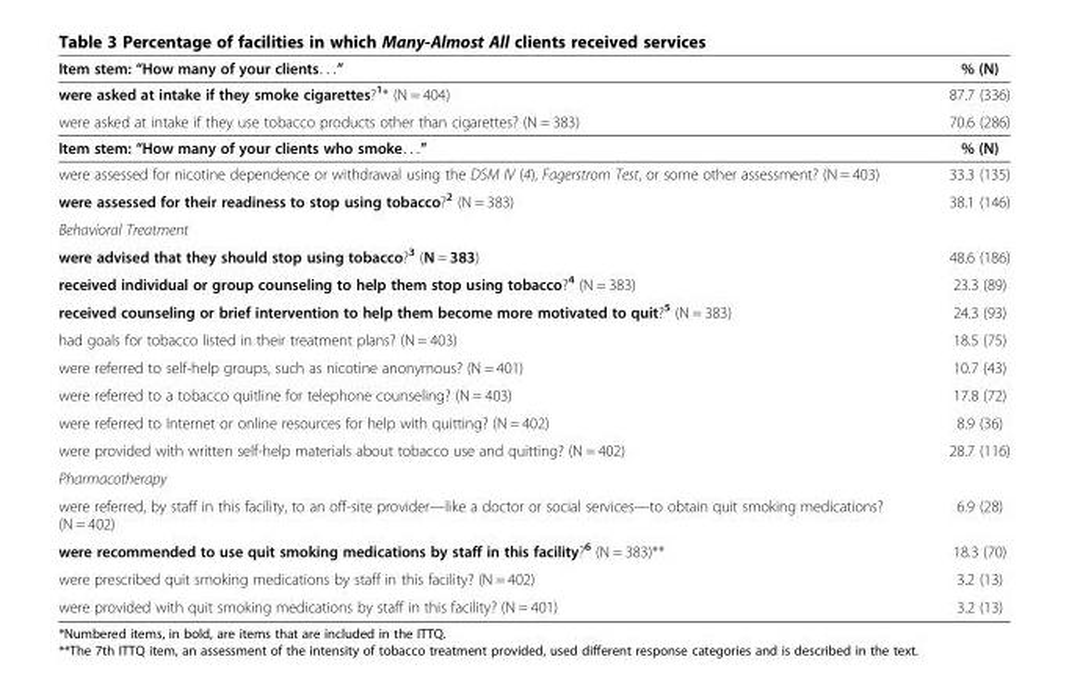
<table><thead><tr><td>Item stem: “How many of your clients. . .”</td><td>% (N)</td></tr></thead><tbody><tr><td>were asked at intake if they smoke cigarettes?<sup>1</sup>* (N = 404)</td><td>87.7 (336)</td></tr><tr><td>were asked at intake if they use tobacco products other than cigarettes? (N = 383)</td><td>70.6 (286)</td></tr><tr><td>Item stem: “How many of your clients who smoke. . .”</td><td>% (N)</td></tr><tr><td>were assessed for nicotine dependence or withdrawal using the DSM IV (4), Fagerstrom Test, or some other assessment? (N = 403)</td><td>33.3 (135)</td></tr><tr><td>were assessed for their readiness to stop using tobacco?<sup>2</sup> (N = 383)</td><td>38.1 (146)</td></tr><tr><td colspan="2">Behavioral Treatment</td></tr><tr><td>were advised that they should stop using tobacco?<sup>3</sup> (N = 383)</td><td>48.6 (186)</td></tr><tr><td>received individual or group counseling to help them stop using tobacco?<sup>4</sup> (N = 383)</td><td>23.3 (89)</td></tr><tr><td>received counseling or brief intervention to help them become more motivated to quit?<sup>5</sup> (N = 383)</td><td>24.3 (93)</td></tr><tr><td>had goals for tobacco listed in their treatment plans? (N = 403)</td><td>18.5 (75)</td></tr><tr><td>were referred to self-help groups, such as nicotine anonymous? (N = 401)</td><td>10.7 (43)</td></tr><tr><td>were referred to a tobacco quitline for telephone counseling? (N = 403)</td><td>17.8 (72)</td></tr><tr><td>were referred to Internet or online resources for help with quitting? (N = 402)</td><td>8.9 (36)</td></tr><tr><td>were provided with written self-help materials about tobacco use and quitting? (N = 402)</td><td>28.7 (116)</td></tr><tr><td colspan="2">Pharmacotherapy</td></tr><tr><td>were referred, by staff in this facility, to an off-site provider—like a doctor or social services—to obtain quit smoking medications? (N = 402)</td><td>6.9 (28)</td></tr><tr><td>were recommended to use quit smoking medications by staff in this facility?<sup>6</sup> (N = 383)**</td><td>18.3 (70)</td></tr><tr><td>were prescribed quit smoking medications by staff in this facility? (N = 402)</td><td>3.2 (13)</td></tr><tr><td>were provided with quit smoking medications by staff in this facility? (N = 401)</td><td>3.2 (13)</td></tr></tbody></table>